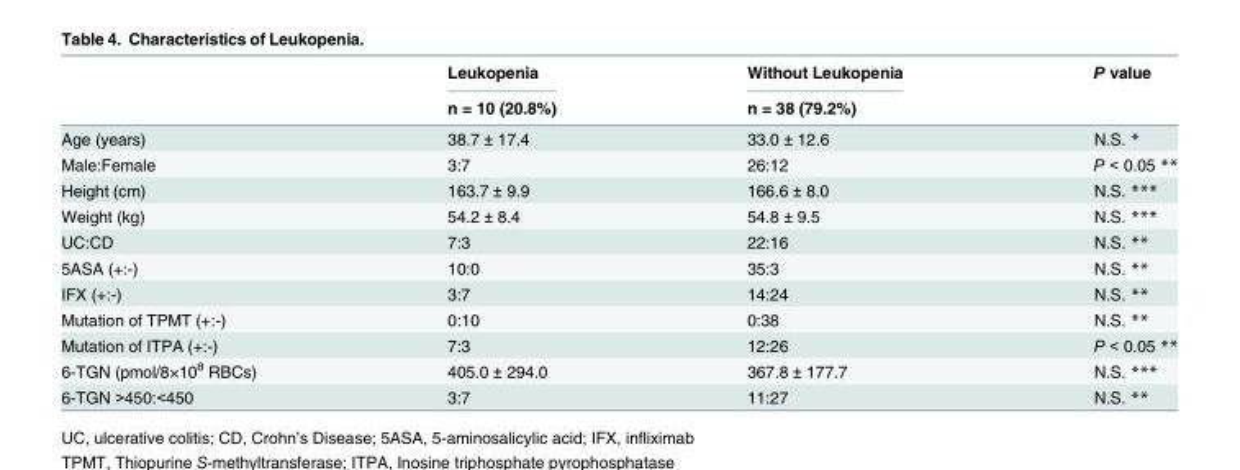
<table><thead><tr><td rowspan="2"></td><td rowspan="2">Leukopenia n = 10 (20.8%)</td><td rowspan="2">Without Leukopenia n = 38 (79.2%)</td><td rowspan="2">P value</td></tr><tr></tr></thead><tbody><tr><td>Age (years)</td><td>38.7 ± 17.4</td><td>33.0 ± 12.6</td><td>N.S. *</td></tr><tr><td>Male:Female</td><td>3:7</td><td>26:12</td><td>P &lt; 0.05 **</td></tr><tr><td>Height (cm)</td><td>163.7 ± 9.9</td><td>166.6 ± 8.0</td><td>N.S. ***</td></tr><tr><td>Weight (kg)</td><td>54.2 ± 8.4</td><td>54.8 ± 9.5</td><td>N.S. ***</td></tr><tr><td>UC:CD</td><td>7:3</td><td>22:16</td><td>N.S. **</td></tr><tr><td>5ASA (+:-)</td><td>10:0</td><td>35:3</td><td>N.S. **</td></tr><tr><td>IFX (+:-)</td><td>3:7</td><td>14:24</td><td>N.S. **</td></tr><tr><td>Mutation of TPMT (+:-)</td><td>0:10</td><td>0:38</td><td>N.S. **</td></tr><tr><td>Mutation of ITPA (+:-)</td><td>7:3</td><td>12:26</td><td>P &lt; 0.05 **</td></tr><tr><td>6-TGN (pmol/8×10<sup>8</sup> RBCs)</td><td>405.0 ± 294.0</td><td>367.8 ± 177.7</td><td>N.S. ***</td></tr><tr><td>6-TGN &gt;450:&lt;450</td><td>3:7</td><td>11:27</td><td>N.S. **</td></tr></tbody></table>